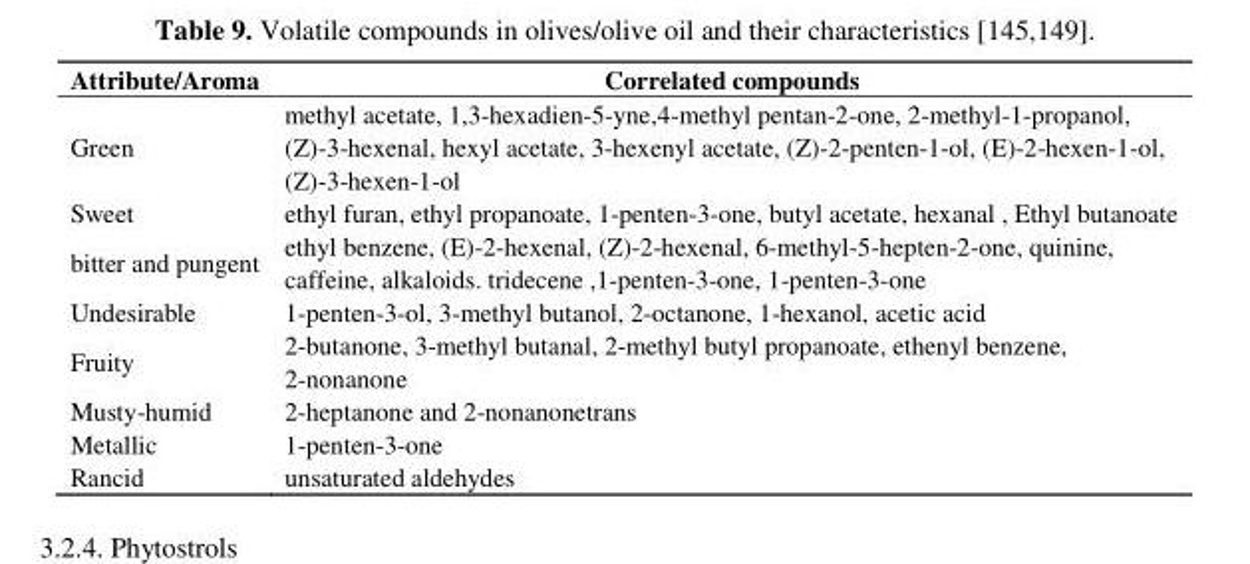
<table><thead><tr><td>Attribute/Aroma</td><td>Correlated compounds</td></tr></thead><tbody><tr><td>Green</td><td>methyl acetate, 1,3-hexadien-5-yne,4-methyl pentan-2-one, 2-methyl-1-propanol, (Z)-3-hexenal, hexyl acetate, 3-hexenyl acetate, (Z)-2-penten-1-ol, (E)-2-hexen-1-ol, (Z)-3-hexen-1-ol</td></tr><tr><td>Sweet</td><td>ethyl furan, ethyl propanoate, 1-penten-3-one, butyl acetate, hexanal , Ethyl butanoate</td></tr><tr><td>bitter and pungent</td><td>ethyl benzene, (E)-2-hexenal, (Z)-2-hexenal, 6-methyl-5-hepten-2-one, quinine, caffeine, alkaloids. tridecene ,1-penten-3-one, 1-penten-3-one</td></tr><tr><td>Undesirable</td><td>1-penten-3-ol, 3-methyl butanol, 2-octanone, 1-hexanol, acetic acid</td></tr><tr><td>Fruity</td><td>2-butanone, 3-methyl butanal, 2-methyl butyl propanoate, ethenyl benzene, 2-nonanone</td></tr><tr><td>Musty-humid</td><td>2-heptanone and 2-nonanonetrans</td></tr><tr><td>Metallic</td><td>1-penten-3-one</td></tr><tr><td>Rancid</td><td>unsaturated aldehydes</td></tr></tbody></table>